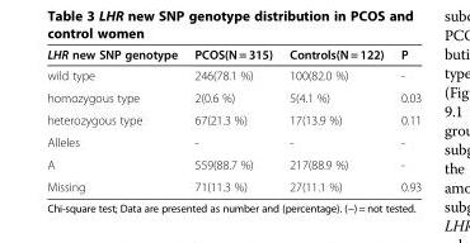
<table><thead><tr><td>LHR new SNP genotype</td><td>PCOS(N = 315)</td><td>Controls(N = 122)</td><td>P</td></tr></thead><tbody><tr><td>wild type</td><td>246(78.1 %)</td><td>100(82.0 %)</td><td>-</td></tr><tr><td>homozygous type</td><td>2(0.6 %)</td><td>5(4.1 %)</td><td>0.03</td></tr><tr><td>heterozygous type</td><td>67(21.3 %)</td><td>17(13.9 %)</td><td>0.11</td></tr><tr><td>Alleles</td><td>-</td><td>-</td><td>-</td></tr><tr><td>A</td><td>559(88.7 %)</td><td>217(88.9 %)</td><td>-</td></tr><tr><td>Missing</td><td>71(11.3 %)</td><td>27(11.1 %)</td><td>0.93</td></tr></tbody></table>